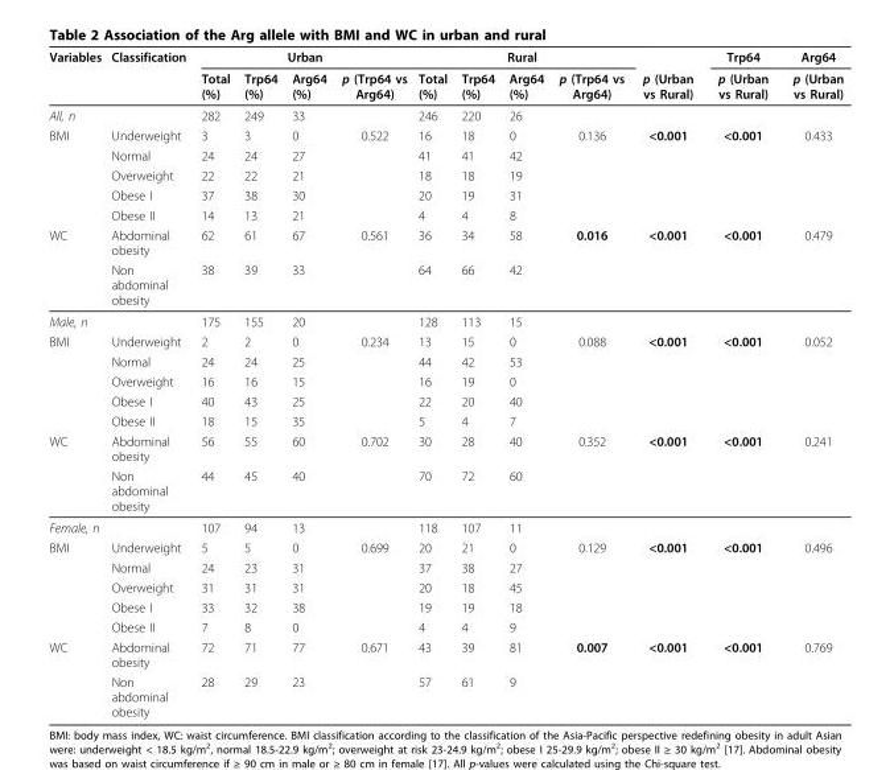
<table><thead><tr><td rowspan="2">Variables</td><td rowspan="2">Classification</td><td colspan="4">Urban</td><td colspan="4">Rural</td><td rowspan="2">p (Urban vs Rural)</td><td rowspan="2">Trp64 p (Urban vs Rural)</td><td rowspan="2">Arg64 p (Urban vs Rural)</td></tr><tr><td>Total (%)</td><td>Trp64 (%)</td><td>Arg64 (%)</td><td>p (Trp64 vs Arg64)</td><td>Total (%)</td><td>Trp64 (%)</td><td>Arg64 (%)</td><td>p (Trp64 vs Arg64)</td></tr></thead><tbody><tr><td>All, n</td><td></td><td>282</td><td>249</td><td>33</td><td></td><td>246</td><td>220</td><td>26</td><td></td><td></td><td></td><td></td></tr><tr><td rowspan="5">BMI</td><td>Underweight</td><td>3</td><td>3</td><td>0</td><td>0.522</td><td>16</td><td>18</td><td>0</td><td>0.136</td><td>&lt;0.001</td><td>&lt;0.001</td><td>0.433</td></tr><tr><td>Normal</td><td>24</td><td>24</td><td>27</td><td></td><td>41</td><td>41</td><td>42</td><td></td><td></td><td></td><td></td></tr><tr><td>Overweight</td><td>22</td><td>22</td><td>21</td><td></td><td>18</td><td>18</td><td>19</td><td></td><td></td><td></td><td></td></tr><tr><td>Obese I</td><td>37</td><td>38</td><td>30</td><td></td><td>20</td><td>19</td><td>31</td><td></td><td></td><td></td><td></td></tr><tr><td>Obese II</td><td>14</td><td>13</td><td>21</td><td></td><td>4</td><td>4</td><td>8</td><td></td><td></td><td></td><td></td></tr><tr><td rowspan="2">WC</td><td>Abdominal obesity</td><td>62</td><td>61</td><td>67</td><td>0.561</td><td>36</td><td>34</td><td>58</td><td>0.016</td><td>&lt;0.001</td><td>&lt;0.001</td><td>0.479</td></tr><tr><td>Non abdominal obesity</td><td>38</td><td>39</td><td>33</td><td></td><td>64</td><td>66</td><td>42</td><td></td><td></td><td></td><td></td></tr><tr><td>Male, n</td><td></td><td>175</td><td>155</td><td>20</td><td></td><td>128</td><td>113</td><td>15</td><td></td><td></td><td></td><td></td></tr><tr><td rowspan="5">BMI</td><td>Underweight</td><td>2</td><td>2</td><td>0</td><td>0.234</td><td>13</td><td>15</td><td>0</td><td>0.088</td><td>&lt;0.001</td><td>&lt;0.001</td><td>0.052</td></tr><tr><td>Normal</td><td>24</td><td>24</td><td>25</td><td></td><td>44</td><td>42</td><td>53</td><td></td><td></td><td></td><td></td></tr><tr><td>Overweight</td><td>16</td><td>16</td><td>15</td><td></td><td>16</td><td>19</td><td>0</td><td></td><td></td><td></td><td></td></tr><tr><td>Obese I</td><td>40</td><td>43</td><td>25</td><td></td><td>22</td><td>20</td><td>40</td><td></td><td></td><td></td><td></td></tr><tr><td>Obese II</td><td>18</td><td>15</td><td>35</td><td></td><td>5</td><td>4</td><td>7</td><td></td><td></td><td></td><td></td></tr><tr><td rowspan="2">WC</td><td>Abdominal obesity</td><td>56</td><td>55</td><td>60</td><td>0.702</td><td>30</td><td>28</td><td>40</td><td>0.352</td><td>&lt;0.001</td><td>&lt;0.001</td><td>0.241</td></tr><tr><td>Non abdominal obesity</td><td>44</td><td>45</td><td>40</td><td></td><td>70</td><td>72</td><td>60</td><td></td><td></td><td></td><td></td></tr><tr><td>Female, n</td><td></td><td>107</td><td>94</td><td>13</td><td></td><td>118</td><td>107</td><td>11</td><td></td><td></td><td></td><td></td></tr><tr><td rowspan="5">BMI</td><td>Underweight</td><td>5</td><td>5</td><td>0</td><td>0.699</td><td>20</td><td>21</td><td>0</td><td>0.129</td><td>&lt;0.001</td><td>&lt;0.001</td><td>0.496</td></tr><tr><td>Normal</td><td>24</td><td>23</td><td>31</td><td></td><td>37</td><td>38</td><td>27</td><td></td><td></td><td></td><td></td></tr><tr><td>Overweight</td><td>31</td><td>31</td><td>31</td><td></td><td>20</td><td>18</td><td>45</td><td></td><td></td><td></td><td></td></tr><tr><td>Obese I</td><td>33</td><td>32</td><td>38</td><td></td><td>19</td><td>19</td><td>18</td><td></td><td></td><td></td><td></td></tr><tr><td>Obese II</td><td>7</td><td>8</td><td>0</td><td></td><td>4</td><td>4</td><td>9</td><td></td><td></td><td></td><td></td></tr><tr><td rowspan="2">WC</td><td>Abdominal obesity</td><td>72</td><td>71</td><td>77</td><td>0.671</td><td>43</td><td>39</td><td>81</td><td>0.007</td><td>&lt;0.001</td><td>&lt;0.001</td><td>0.769</td></tr><tr><td>Non abdominal obesity</td><td>28</td><td>29</td><td>23</td><td></td><td>57</td><td>61</td><td>9</td><td></td><td></td><td></td><td></td></tr></tbody></table>